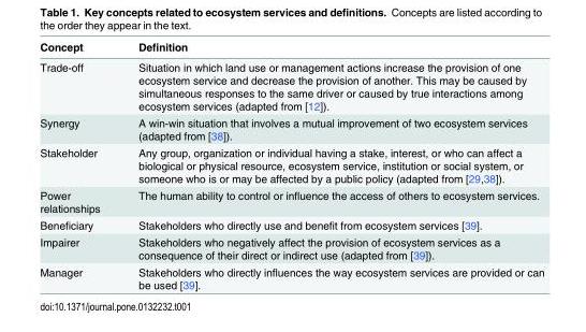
<table><thead><tr><td>Concept</td><td>Definition</td></tr></thead><tbody><tr><td>Trade-off</td><td>Situation in which land use or management actions increase the provision of one ecosystem service and decrease the provision of another. This may be caused by simultaneous responses to the same driver or caused by true interactions among ecosystem services (adapted from [12]).</td></tr><tr><td>Synergy</td><td>A win-win situation that involves a mutual improvement of two ecosystem services (adapted from [38]).</td></tr><tr><td>Stakeholder</td><td>Any group, organization or individual having a stake, interest, or who can affect a biological or physical resource, ecosystem service, institution or social system, or someone who is or may be affected by a public policy (adapted from [29,38]).</td></tr><tr><td>Power relationships</td><td>The human ability to control or influence the access of others to ecosystem services.</td></tr><tr><td>Beneficiary</td><td>Stakeholders who directly use and benefit from ecosystem services [39].</td></tr><tr><td>Impairer</td><td>Stakeholders who negatively affect the provision of ecosystem services as a consequence of their direct or indirect use (adapted from [39]).</td></tr><tr><td>Manager</td><td>Stakeholders who directly influences the way ecosystem services are provided or can be used [39].</td></tr></tbody></table>